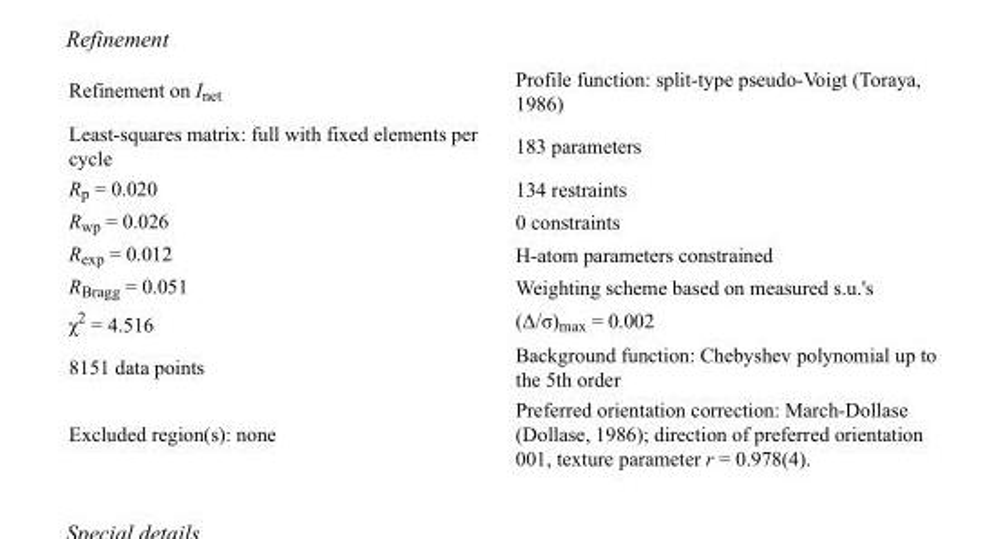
<table><tbody><tr><td>Refinement on I<sub>net</sub></td><td>Profile function: split-type pseudo-Voigt (Toraya, 1986)</td></tr><tr><td>Least-squares matrix: full with fixed elements per cycle</td><td>183 parameters</td></tr><tr><td>R<sub>p</sub> = 0.020</td><td>134 restraints</td></tr><tr><td>R<sub>wp</sub> = 0.026</td><td>0 constraints</td></tr><tr><td>R<sub>exp</sub> = 0.012</td><td>H-atom parameters constrained</td></tr><tr><td>R<sub>Bragg</sub> = 0.051</td><td>Weighting scheme based on measured s.u.&#x27;s</td></tr><tr><td>χ<sup>2</sup> = 4.516</td><td>(Δ/σ)<sub>max</sub> = 0.002</td></tr><tr><td>8151 data points</td><td>Background function: Chebyshev polynomial up to the 5th order</td></tr><tr><td>Excluded region(s): none</td><td>Preferred orientation correction: March-Dollase (Dollase, 1986); direction of preferred orientation 001, texture parameter r = 0.978(4).</td></tr></tbody></table>